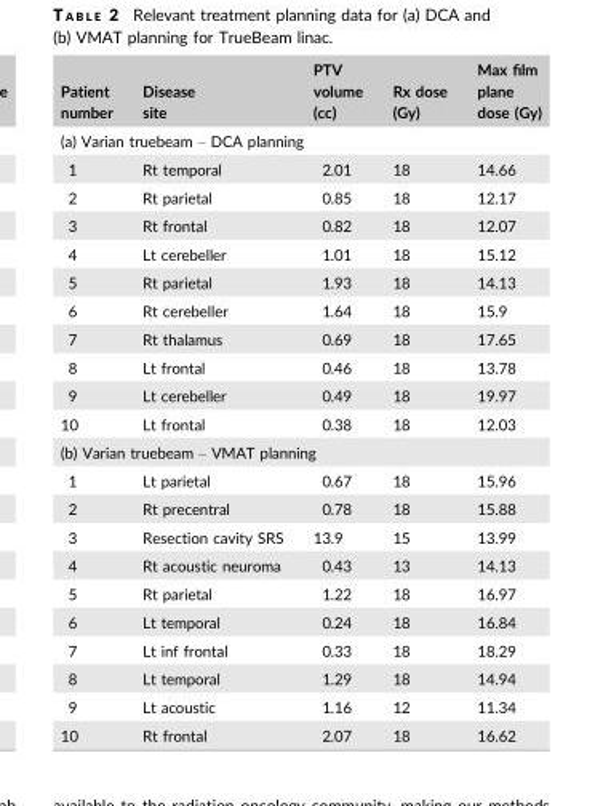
<table><thead><tr><td>Patient number</td><td>Disease site</td><td>PTV volume (cc)</td><td>Rx dose (Gy)</td><td>Max film plane dose (Gy)</td></tr></thead><tbody><tr><td colspan="5">(a) Varian truebeam – DCA planning</td></tr><tr><td>1</td><td>Rt temporal</td><td>2.01</td><td>18</td><td>14.66</td></tr><tr><td>2</td><td>Rt parietal</td><td>0.85</td><td>18</td><td>12.17</td></tr><tr><td>3</td><td>Rt frontal</td><td>0.82</td><td>18</td><td>12.07</td></tr><tr><td>4</td><td>Lt cerebeller</td><td>1.01</td><td>18</td><td>15.12</td></tr><tr><td>5</td><td>Rt parietal</td><td>1.93</td><td>18</td><td>14.13</td></tr><tr><td>6</td><td>Rt cerebeller</td><td>1.64</td><td>18</td><td>15.9</td></tr><tr><td>7</td><td>Rt thalamus</td><td>0.69</td><td>18</td><td>17.65</td></tr><tr><td>8</td><td>Lt frontal</td><td>0.46</td><td>18</td><td>13.78</td></tr><tr><td>9</td><td>Lt cerebeller</td><td>0.49</td><td>18</td><td>19.97</td></tr><tr><td>10</td><td>Lt frontal</td><td>0.38</td><td>18</td><td>12.03</td></tr><tr><td colspan="5">(b) Varian truebeam – VMAT planning</td></tr><tr><td>1</td><td>Lt parietal</td><td>0.67</td><td>18</td><td>15.96</td></tr><tr><td>2</td><td>Rt precentral</td><td>0.78</td><td>18</td><td>15.88</td></tr><tr><td>3</td><td>Resection cavity SRS</td><td>13.9</td><td>15</td><td>13.99</td></tr><tr><td>4</td><td>Rt acoustic neuroma</td><td>0.43</td><td>13</td><td>14.13</td></tr><tr><td>5</td><td>Rt parietal</td><td>1.22</td><td>18</td><td>16.97</td></tr><tr><td>6</td><td>Lt temporal</td><td>0.24</td><td>18</td><td>16.84</td></tr><tr><td>7</td><td>Lt inf frontal</td><td>0.33</td><td>18</td><td>18.29</td></tr><tr><td>8</td><td>Lt temporal</td><td>1.29</td><td>18</td><td>14.94</td></tr><tr><td>9</td><td>Lt acoustic</td><td>1.16</td><td>12</td><td>11.34</td></tr><tr><td>10</td><td>Rt frontal</td><td>2.07</td><td>18</td><td>16.62</td></tr></tbody></table>